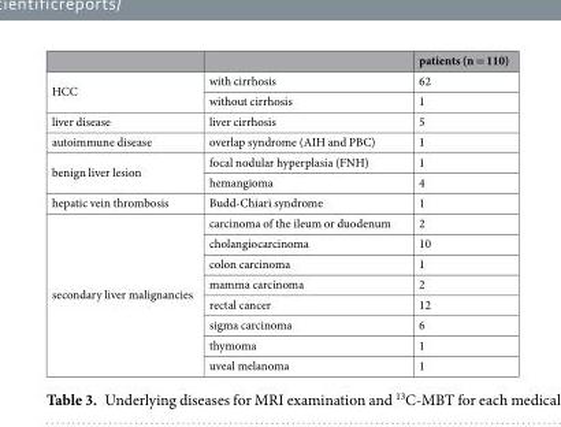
<table><thead><tr><td></td><td></td><td>patients (n = 110)</td></tr></thead><tbody><tr><td rowspan="2">HCC</td><td>with cirrhosis</td><td>62</td></tr><tr><td>without cirrhosis</td><td>1</td></tr><tr><td>liver disease</td><td>liver cirrhosis</td><td>5</td></tr><tr><td>autoimmune disease</td><td>overlap syndrome (AIH and PBC)</td><td>1</td></tr><tr><td rowspan="2">benign liver lesion</td><td>focal nodular hyperplasia (FNH)</td><td>1</td></tr><tr><td>hemangioma</td><td>4</td></tr><tr><td>hepatic vein thrombosis</td><td>Budd-Chiari syndrome</td><td>1</td></tr><tr><td rowspan="8">secondary liver malignancies</td><td>carcinoma of the ileum or duodenum</td><td>2</td></tr><tr><td>cholangiocarcinoma</td><td>10</td></tr><tr><td>colon carcinoma</td><td>1</td></tr><tr><td>mamma carcinoma</td><td>2</td></tr><tr><td>rectal cancer</td><td>12</td></tr><tr><td>sigma carcinoma</td><td>6</td></tr><tr><td>thymoma</td><td>1</td></tr><tr><td>uveal melanoma</td><td>1</td></tr></tbody></table>